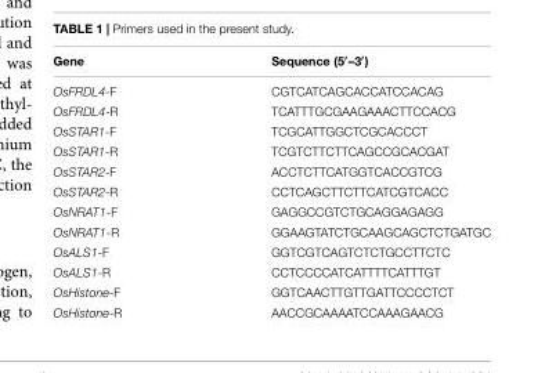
<table><thead><tr><td>Gene</td><td>Sequence (5′–3′)</td></tr></thead><tbody><tr><td>OsFRDL4-F</td><td>CGTCATCAGCACCATCCACAG</td></tr><tr><td>OsFRDL4-R</td><td>TCATTTGCGAAGAAACTTCCACG</td></tr><tr><td>OsSTAR1-F</td><td>TCGCATTGGCTCGCACCCT</td></tr><tr><td>OsSTAR1-R</td><td>TCGTCTTCTTCAGCCGCACGAT</td></tr><tr><td>OsSTAR2-F</td><td>ACCTCTTCATGGTCACCGTCG</td></tr><tr><td>OsSTAR2-R</td><td>CCTCAGCTTCTTCATCGTCACC</td></tr><tr><td>OsNRAT1-F</td><td>GAGGCCGTCTGCAGGAGAGG</td></tr><tr><td>OsNRAT1-R</td><td>GGAAGTATCTGCAAGCAGCTCTGATGC</td></tr><tr><td>OsALS1-F</td><td>GGTCGTCAGTCTCTGCCTTCTC</td></tr><tr><td>OsALS1-R</td><td>CCTCCCCATCATTTTCATTTGT</td></tr><tr><td>OsHistone-F</td><td>GGTCAACTTGTTGATTCCCCTCT</td></tr><tr><td>OsHistone-R</td><td>AACCGCAAAATCCAAAGAACG</td></tr></tbody></table>